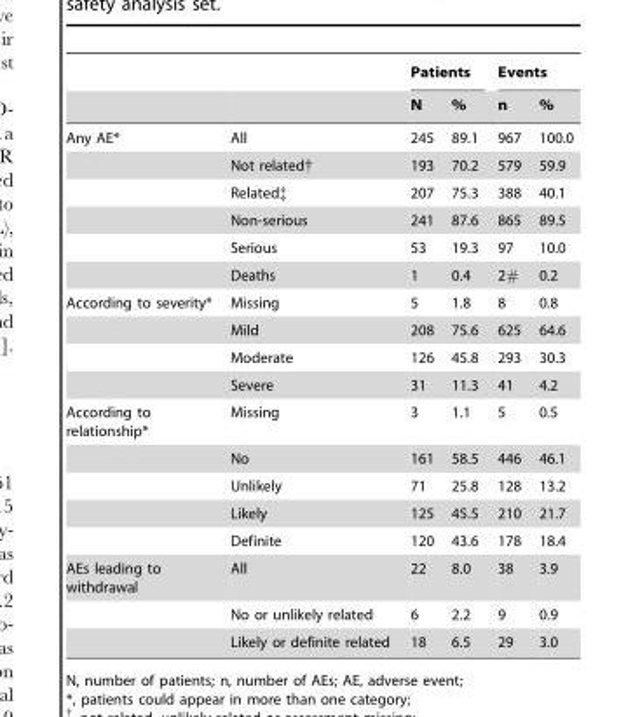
<table><thead><tr><td rowspan="2"></td><td rowspan="2"></td><td colspan="2">Patients</td><td colspan="2">Events</td></tr><tr><td>N</td><td>%</td><td>n</td><td>%</td></tr></thead><tbody><tr><td rowspan="6">Any AE*</td><td>All</td><td>245</td><td>89.1</td><td>967</td><td>100.0</td></tr><tr><td>Not related†</td><td>193</td><td>70.2</td><td>579</td><td>59.9</td></tr><tr><td>Related‡</td><td>207</td><td>75.3</td><td>388</td><td>40.1</td></tr><tr><td>Non-serious</td><td>241</td><td>87.6</td><td>865</td><td>89.5</td></tr><tr><td>Serious</td><td>53</td><td>19.3</td><td>97</td><td>10.0</td></tr><tr><td>Deaths</td><td>1</td><td>0.4</td><td>2#</td><td>0.2</td></tr><tr><td rowspan="4">According to severity*</td><td>Missing</td><td>5</td><td>1.8</td><td>8</td><td>0.8</td></tr><tr><td>Mild</td><td>208</td><td>75.6</td><td>625</td><td>64.6</td></tr><tr><td>Moderate</td><td>126</td><td>45.8</td><td>293</td><td>30.3</td></tr><tr><td>Severe</td><td>31</td><td>11.3</td><td>41</td><td>4.2</td></tr><tr><td rowspan="5">According to relationship*</td><td>Missing</td><td>3</td><td>1.1</td><td>5</td><td>0.5</td></tr><tr><td>No</td><td>161</td><td>58.5</td><td>446</td><td>46.1</td></tr><tr><td>Unlikely</td><td>71</td><td>25.8</td><td>128</td><td>13.2</td></tr><tr><td>Likely</td><td>125</td><td>45.5</td><td>210</td><td>21.7</td></tr><tr><td>Definite</td><td>120</td><td>43.6</td><td>178</td><td>18.4</td></tr><tr><td rowspan="3">AEs leading to withdrawal</td><td>All</td><td>22</td><td>8.0</td><td>38</td><td>3.9</td></tr><tr><td>No or unlikely related</td><td>6</td><td>2.2</td><td>9</td><td>0.9</td></tr><tr><td>Likely or definite related</td><td>18</td><td>6.5</td><td>29</td><td>3.0</td></tr></tbody></table>